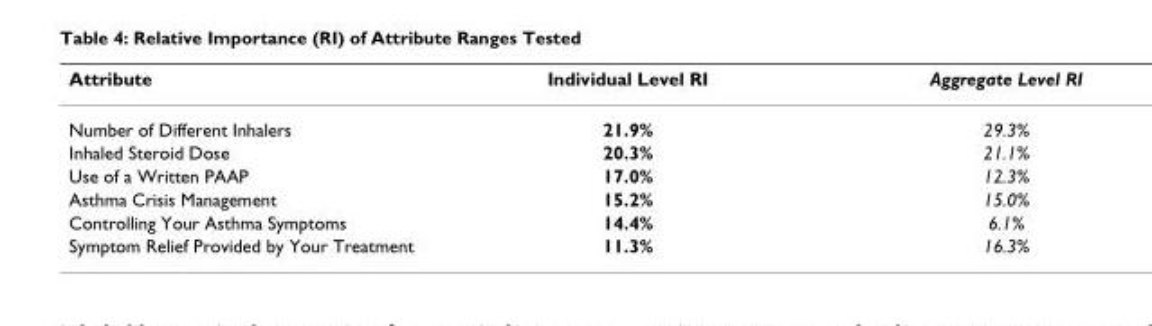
<table><thead><tr><td>Attribute</td><td>Individual Level RI</td><td>Aggregate Level RI</td></tr></thead><tbody><tr><td>Number of Different Inhalers</td><td>21.9%</td><td>29.3%</td></tr><tr><td>Inhaled Steroid Dose</td><td>20.3%</td><td>21.1%</td></tr><tr><td>Use of a Written PAAP</td><td>17.0%</td><td>12.3%</td></tr><tr><td>Asthma Crisis Management</td><td>15.2%</td><td>15.0%</td></tr><tr><td>Controlling Your Asthma Symptoms</td><td>14.4%</td><td>6.1%</td></tr><tr><td>Symptom Relief Provided by Your Treatment</td><td>11.3%</td><td>16.3%</td></tr></tbody></table>